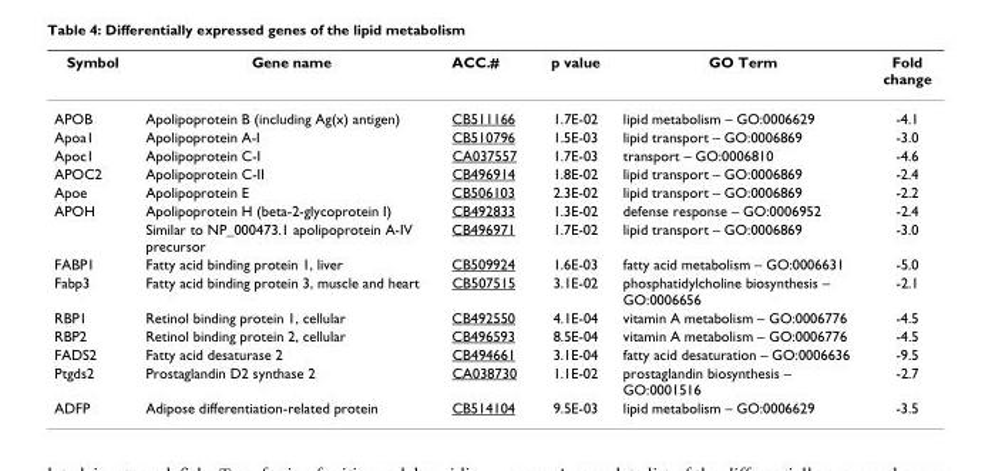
<table><thead><tr><td>Symbol</td><td>Gene name</td><td>ACC.#</td><td>p value</td><td>GO Term</td><td>Fold change</td></tr></thead><tbody><tr><td>APOB</td><td>Apolipoprotein B (including Ag(x) antigen)</td><td>CB511166</td><td>1.7E-02</td><td>lipid metabolism – GO:0006629</td><td>-4.1</td></tr><tr><td>Apoa1</td><td>Apolipoprotein A-I</td><td>CB510796</td><td>1.5E-03</td><td>lipid transport – GO:0006869</td><td>-3.0</td></tr><tr><td>Apoc1</td><td>Apolipoprotein C-I</td><td>CA037557</td><td>1.7E-03</td><td>transport – GO:0006810</td><td>-4.6</td></tr><tr><td>APOC2</td><td>Apolipoprotein C-II</td><td>CB496914</td><td>1.8E-02</td><td>lipid transport – GO:0006869</td><td>-2.4</td></tr><tr><td>Apoe</td><td>Apolipoprotein E</td><td>CB506103</td><td>2.3E-02</td><td>lipid transport – GO:0006869</td><td>-2.2</td></tr><tr><td rowspan="2">APOH</td><td>Apolipoprotein H (beta-2-glycoprotein I)</td><td>CB492833</td><td>1.3E-02</td><td>defense response – GO:0006952</td><td>-2.4</td></tr><tr><td>Similar to NP_000473.1 apolipoprotein A-IV precursor</td><td>CB496971</td><td>1.7E-02</td><td>lipid transport – GO:0006869</td><td>-3.0</td></tr><tr><td>FABP1</td><td>Fatty acid binding protein 1, liver</td><td>CB509924</td><td>1.6E-03</td><td>fatty acid metabolism – GO:0006631</td><td>-5.0</td></tr><tr><td>Fabp3</td><td>Fatty acid binding protein 3, muscle and heart</td><td>CB507515</td><td>3.1E-02</td><td>phosphatidylcholine biosynthesis – GO:0006656</td><td>-2.1</td></tr><tr><td>RBP1</td><td>Retinol binding protein 1, cellular</td><td>CB492550</td><td>4.1E-04</td><td>vitamin A metabolism – GO:0006776</td><td>-4.5</td></tr><tr><td>RBP2</td><td>Retinol binding protein 2, cellular</td><td>CB496593</td><td>8.5E-04</td><td>vitamin A metabolism – GO:0006776</td><td>-4.5</td></tr><tr><td>FADS2</td><td>Fatty acid desaturase 2</td><td>CB494661</td><td>3.1E-04</td><td>fatty acid desaturation – GO:0006636</td><td>-9.5</td></tr><tr><td>Ptgds2</td><td>Prostaglandin D2 synthase 2</td><td>CA038730</td><td>1.1E-02</td><td>prostaglandin biosynthesis – GO:0001516</td><td>-2.7</td></tr><tr><td>ADFP</td><td>Adipose differentiation-related protein</td><td>CB514104</td><td>9.5E-03</td><td>lipid metabolism – GO:0006629</td><td>-3.5</td></tr></tbody></table>